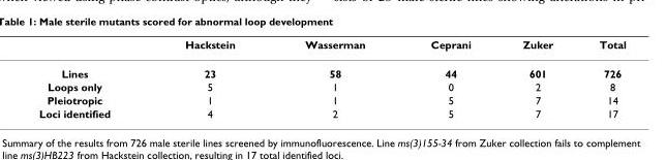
<table><thead><tr><td></td><td>Hackstein</td><td>Wasserman</td><td>Ceprani</td><td>Zuker</td><td>Total</td></tr></thead><tbody><tr><td>Lines</td><td>23</td><td>58</td><td>44</td><td>601</td><td>726</td></tr><tr><td>Loops only</td><td>5</td><td>1</td><td>0</td><td>2</td><td>8</td></tr><tr><td>Pleiotropic</td><td>1</td><td>1</td><td>5</td><td>7</td><td>14</td></tr><tr><td>Loci identified</td><td>4</td><td>2</td><td>5</td><td>7</td><td>17</td></tr></tbody></table>